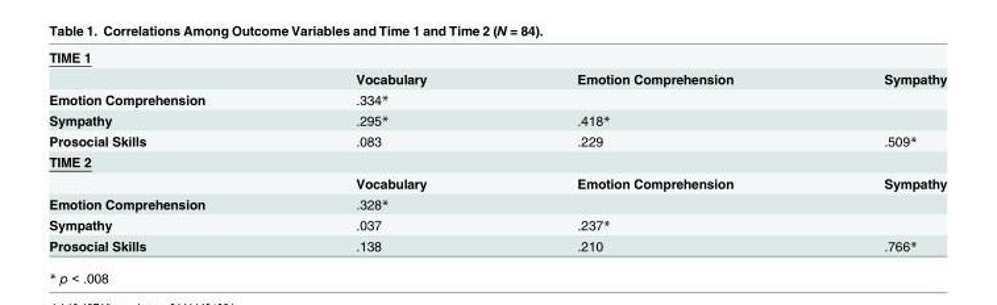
<table><tbody><tr><td colspan="4">TIME 1</td></tr><tr><td></td><td>Vocabulary</td><td>Emotion Comprehension</td><td>Sympathy</td></tr><tr><td>Emotion Comprehension</td><td>.334*</td><td></td><td></td></tr><tr><td>Sympathy</td><td>.295*</td><td>.418*</td><td></td></tr><tr><td>Prosocial Skills</td><td>.083</td><td>.229</td><td>.509*</td></tr><tr><td colspan="4">TIME 2</td></tr><tr><td></td><td>Vocabulary</td><td>Emotion Comprehension</td><td>Sympathy</td></tr><tr><td>Emotion Comprehension</td><td>.328*</td><td></td><td></td></tr><tr><td>Sympathy</td><td>.037</td><td>.237*</td><td></td></tr><tr><td>Prosocial Skills</td><td>.138</td><td>.210</td><td>.766*</td></tr></tbody></table>